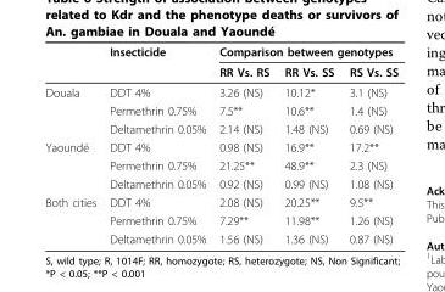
<table><thead><tr><td rowspan="2"></td><td rowspan="2">Insecticide</td><td colspan="3">Comparison between genotypes</td></tr><tr><td>RR Vs. RS</td><td>RR Vs. SS</td><td>RS Vs. SS</td></tr></thead><tbody><tr><td rowspan="3">Douala</td><td>DDT 4%</td><td>3.26 (NS)</td><td>10.12*</td><td>3.1 (NS)</td></tr><tr><td>Permethrin 0.75%</td><td>7.5**</td><td>10.6**</td><td>1.4 (NS)</td></tr><tr><td>Deltamethrin 0.05%</td><td>2.14 (NS)</td><td>1.48 (NS)</td><td>0.69 (NS)</td></tr><tr><td rowspan="3">Yaoundé</td><td>DDT 4%</td><td>0.98 (NS)</td><td>16.9**</td><td>17.2**</td></tr><tr><td>Permethrin 0.75%</td><td>21.25**</td><td>48.9**</td><td>2.3 (NS)</td></tr><tr><td>Deltamethrin 0.05%</td><td>0.92 (NS)</td><td>0.99 (NS)</td><td>1.08 (NS)</td></tr><tr><td rowspan="3">Both cities</td><td>DDT 4%</td><td>2.08 (NS)</td><td>20.25**</td><td>9.5**</td></tr><tr><td>Permethrin 0.75%</td><td>7.29**</td><td>11.98**</td><td>1.26 (NS)</td></tr><tr><td>Deltamethrin 0.05%</td><td>1.56 (NS)</td><td>1.36 (NS)</td><td>0.87 (NS)</td></tr></tbody></table>